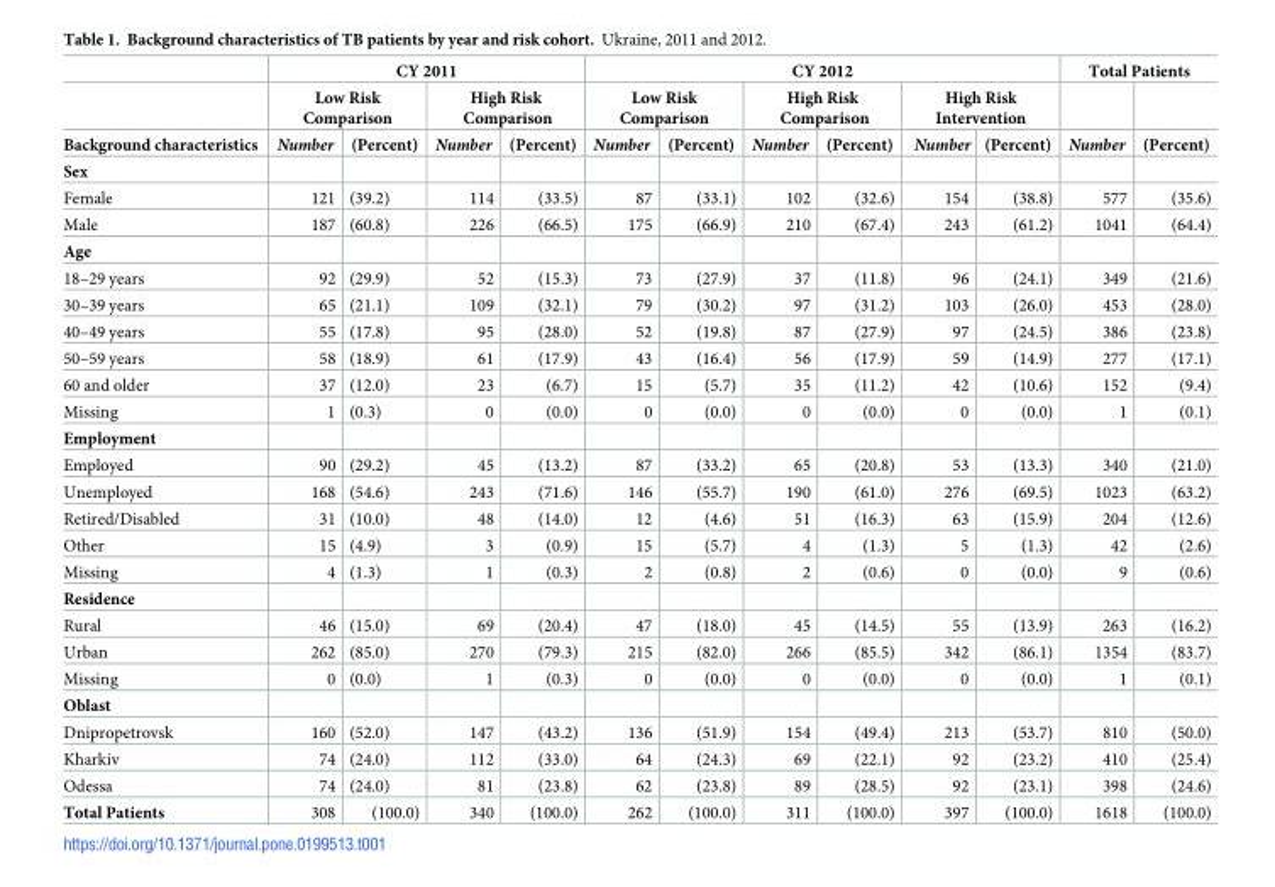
<table><thead><tr><td rowspan="3">Background characteristics</td><td colspan="4">CY 2011</td><td colspan="6">CY 2012</td><td colspan="2">Total Patients</td></tr><tr><td colspan="2">Low Risk Comparison</td><td colspan="2">High Risk Comparison</td><td colspan="2">Low Risk Comparison</td><td colspan="2">High Risk Comparison</td><td colspan="2">High Risk Intervention</td><td rowspan="2">Number</td><td rowspan="2">(Percent)</td></tr><tr><td>Number</td><td>(Percent)</td><td>Number</td><td>(Percent)</td><td>Number</td><td>(Percent)</td><td>Number</td><td>(Percent)</td><td>Number</td><td>(Percent)</td></tr></thead><tbody><tr><td colspan="13">Sex</td></tr><tr><td>Female</td><td>121</td><td>(39.2)</td><td>114</td><td>(33.5)</td><td>87</td><td>(33.1)</td><td>102</td><td>(32.6)</td><td>154</td><td>(38.8)</td><td>577</td><td>(35.6)</td></tr><tr><td>Male</td><td>187</td><td>(60.8)</td><td>226</td><td>(66.5)</td><td>175</td><td>(66.9)</td><td>210</td><td>(67.4)</td><td>243</td><td>(61.2)</td><td>1041</td><td>(64.4)</td></tr><tr><td colspan="13">Age</td></tr><tr><td>18–29 years</td><td>92</td><td>(29.9)</td><td>52</td><td>(15.3)</td><td>73</td><td>(27.9)</td><td>37</td><td>(11.8)</td><td>96</td><td>(24.1)</td><td>349</td><td>(21.6)</td></tr><tr><td>30–39 years</td><td>65</td><td>(21.1)</td><td>109</td><td>(32.1)</td><td>79</td><td>(30.2)</td><td>97</td><td>(31.2)</td><td>103</td><td>(26.0)</td><td>453</td><td>(28.0)</td></tr><tr><td>40–49 years</td><td>55</td><td>(17.8)</td><td>95</td><td>(28.0)</td><td>52</td><td>(19.8)</td><td>87</td><td>(27.9)</td><td>97</td><td>(24.5)</td><td>386</td><td>(23.8)</td></tr><tr><td>50–59 years</td><td>58</td><td>(18.9)</td><td>61</td><td>(17.9)</td><td>43</td><td>(16.4)</td><td>56</td><td>(17.9)</td><td>59</td><td>(14.9)</td><td>277</td><td>(17.1)</td></tr><tr><td>60 and older</td><td>37</td><td>(12.0)</td><td>23</td><td>(6.7)</td><td>15</td><td>(5.7)</td><td>35</td><td>(11.2)</td><td>42</td><td>(10.6)</td><td>152</td><td>(9.4)</td></tr><tr><td>Missing</td><td>1</td><td>(0.3)</td><td>0</td><td>(0.0)</td><td>0</td><td>(0.0)</td><td>0</td><td>(0.0)</td><td>0</td><td>(0.0)</td><td>1</td><td>(0.1)</td></tr><tr><td colspan="13">Employment</td></tr><tr><td>Employed</td><td>90</td><td>(29.2)</td><td>45</td><td>(13.2)</td><td>87</td><td>(33.2)</td><td>65</td><td>(20.8)</td><td>53</td><td>(13.3)</td><td>340</td><td>(21.0)</td></tr><tr><td>Unemployed</td><td>168</td><td>(54.6)</td><td>243</td><td>(71.6)</td><td>146</td><td>(55.7)</td><td>190</td><td>(61.0)</td><td>276</td><td>(69.5)</td><td>1023</td><td>(63.2)</td></tr><tr><td>Retired/Disabled</td><td>31</td><td>(10.0)</td><td>48</td><td>(14.0)</td><td>12</td><td>(4.6)</td><td>51</td><td>(16.3)</td><td>63</td><td>(15.9)</td><td>204</td><td>(12.6)</td></tr><tr><td>Other</td><td>15</td><td>(4.9)</td><td>3</td><td>(0.9)</td><td>15</td><td>(5.7)</td><td>4</td><td>(1.3)</td><td>5</td><td>(1.3)</td><td>42</td><td>(2.6)</td></tr><tr><td>Missing</td><td>4</td><td>(1.3)</td><td>1</td><td>(0.3)</td><td>2</td><td>(0.8)</td><td>2</td><td>(0.6)</td><td>0</td><td>(0.0)</td><td>9</td><td>(0.6)</td></tr><tr><td colspan="13">Residence</td></tr><tr><td>Rural</td><td>46</td><td>(15.0)</td><td>69</td><td>(20.4)</td><td>47</td><td>(18.0)</td><td>45</td><td>(14.5)</td><td>55</td><td>(13.9)</td><td>263</td><td>(16.2)</td></tr><tr><td>Urban</td><td>262</td><td>(85.0)</td><td>270</td><td>(79.3)</td><td>215</td><td>(82.0)</td><td>266</td><td>(85.5)</td><td>342</td><td>(86.1)</td><td>1354</td><td>(83.7)</td></tr><tr><td>Missing</td><td>0</td><td>(0.0)</td><td>1</td><td>(0.3)</td><td>0</td><td>(0.0)</td><td>0</td><td>(0.0)</td><td>0</td><td>(0.0)</td><td>1</td><td>(0.1)</td></tr><tr><td colspan="13">Oblast</td></tr><tr><td>Dnipropetrovsk</td><td>160</td><td>(52.0)</td><td>147</td><td>(43.2)</td><td>136</td><td>(51.9)</td><td>154</td><td>(49.4)</td><td>213</td><td>(53.7)</td><td>810</td><td>(50.0)</td></tr><tr><td>Kharkiv</td><td>74</td><td>(24.0)</td><td>112</td><td>(33.0)</td><td>64</td><td>(24.3)</td><td>69</td><td>(22.1)</td><td>92</td><td>(23.2)</td><td>410</td><td>(25.4)</td></tr><tr><td>Odessa</td><td>74</td><td>(24.0)</td><td>81</td><td>(23.8)</td><td>62</td><td>(23.8)</td><td>89</td><td>(28.5)</td><td>92</td><td>(23.1)</td><td>398</td><td>(24.6)</td></tr><tr><td>Total Patients</td><td>308</td><td>(100.0)</td><td>340</td><td>(100.0)</td><td>262</td><td>(100.0)</td><td>311</td><td>(100.0)</td><td>397</td><td>(100.0)</td><td>1618</td><td>(100.0)</td></tr></tbody></table>